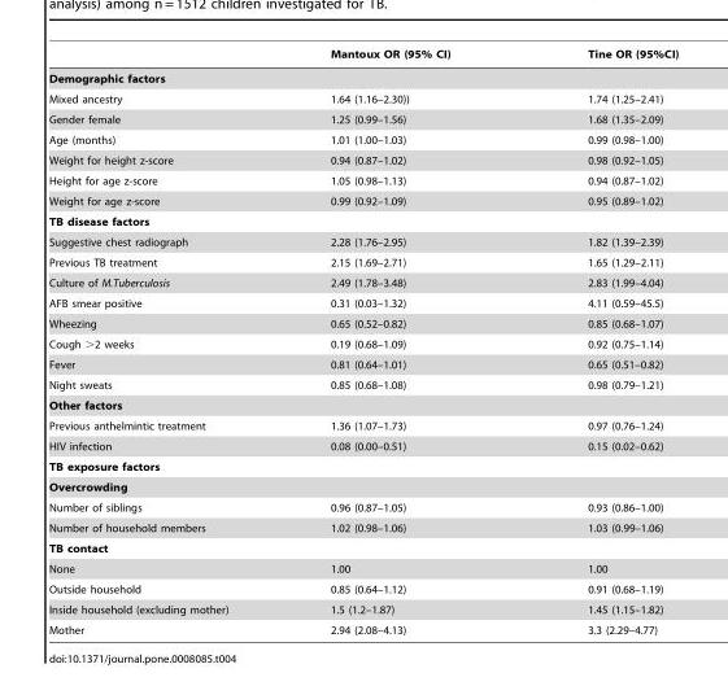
<table><thead><tr><td></td><td>Mantoux OR (95% CI)</td><td>Tine OR (95%CI)</td></tr></thead><tbody><tr><td colspan="3">Demographic factors</td></tr><tr><td>Mixed ancestry</td><td>1.64 (1.16–2.30))</td><td>1.74 (1.25–2.41)</td></tr><tr><td>Gender female</td><td>1.25 (0.99–1.56)</td><td>1.68 (1.35–2.09)</td></tr><tr><td>Age (months)</td><td>1.01 (1.00–1.03)</td><td>0.99 (0.98–1.00)</td></tr><tr><td>Weight for height z-score</td><td>0.94 (0.87–1.02)</td><td>0.98 (0.92–1.05)</td></tr><tr><td>Height for age z-score</td><td>1.05 (0.98–1.13)</td><td>0.94 (0.87–1.02)</td></tr><tr><td>Weight for age z-score</td><td>0.99 (0.92–1.09)</td><td>0.95 (0.89–1.02)</td></tr><tr><td colspan="3">TB disease factors</td></tr><tr><td>Suggestive chest radiograph</td><td>2.28 (1.76–2.95)</td><td>1.82 (1.39–2.39)</td></tr><tr><td>Previous TB treatment</td><td>2.15 (1.69–2.71)</td><td>1.65 (1.29–2.11)</td></tr><tr><td>Culture of M.Tuberculosis</td><td>2.49 (1.78–3.48)</td><td>2.83 (1.99–4.04)</td></tr><tr><td>AFB smear positive</td><td>0.31 (0.03–1.32)</td><td>4.11 (0.59–45.5)</td></tr><tr><td>Wheezing</td><td>0.65 (0.52–0.82)</td><td>0.85 (0.68–1.07)</td></tr><tr><td>Cough &gt;2 weeks</td><td>0.19 (0.68–1.09)</td><td>0.92 (0.75–1.14)</td></tr><tr><td>Fever</td><td>0.81 (0.64–1.01)</td><td>0.65 (0.51–0.82)</td></tr><tr><td>Night sweats</td><td>0.85 (0.68–1.08)</td><td>0.98 (0.79–1.21)</td></tr><tr><td colspan="3">Other factors</td></tr><tr><td>Previous anthelmintic treatment</td><td>1.36 (1.07–1.73)</td><td>0.97 (0.76–1.24)</td></tr><tr><td>HIV infection</td><td>0.08 (0.00–0.51)</td><td>0.15 (0.02–0.62)</td></tr><tr><td colspan="3">TB exposure factors</td></tr><tr><td colspan="3">Overcrowding</td></tr><tr><td>Number of siblings</td><td>0.96 (0.87–1.05)</td><td>0.93 (0.86–1.00)</td></tr><tr><td>Number of household members</td><td>1.02 (0.98–1.06)</td><td>1.03 (0.99–1.06)</td></tr><tr><td colspan="3">TB contact</td></tr><tr><td>None</td><td>1.00</td><td>1.00</td></tr><tr><td>Outside household</td><td>0.85 (0.64–1.12)</td><td>0.91 (0.68–1.19)</td></tr><tr><td>Inside household (excluding mother)</td><td>1.5 (1.2–1.87)</td><td>1.45 (1.15–1.82)</td></tr><tr><td>Mother</td><td>2.94 (2.08–4.13)</td><td>3.3 (2.29–4.77)</td></tr></tbody></table>